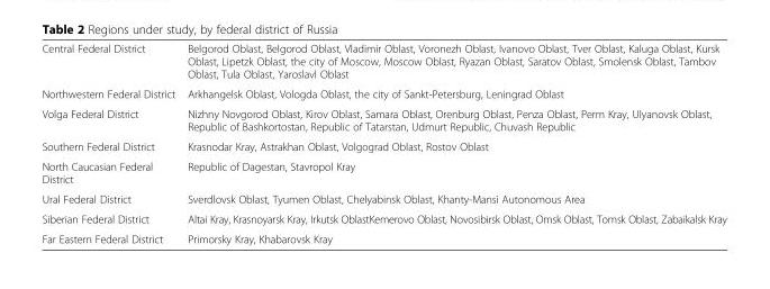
<table><tbody><tr><td>Central Federal District</td><td>Belgorod Oblast, Belgorod Oblast, Vladimir Oblast, Voronezh Oblast, Ivanovo Oblast, Tver Oblast, Kaluga Oblast, Kursk Oblast, Lipetzk Oblast, the city of Moscow, Moscow Oblast, Ryazan Oblast, Saratov Oblast, Smolensk Oblast, Tambov Oblast, Tula Oblast, Yaroslavl Oblast</td></tr><tr><td>Northwestern Federal District</td><td>Arkhangelsk Oblast, Vologda Oblast, the city of Sankt-Petersburg, Leningrad Oblast</td></tr><tr><td>Volga Federal District</td><td>Nizhny Novgorod Oblast, Kirov Oblast, Samara Oblast, Orenburg Oblast, Penza Oblast, Perm Kray, Ulyanovsk Oblast, Republic of Bashkortostan, Republic of Tatarstan, Udmurt Republic, Chuvash Republic</td></tr><tr><td>Southern Federal District</td><td>Krasnodar Kray, Astrakhan Oblast, Volgograd Oblast, Rostov Oblast</td></tr><tr><td>North Caucasian Federal District</td><td>Republic of Dagestan, Stavropol Kray</td></tr><tr><td>Ural Federal District</td><td>Sverdlovsk Oblast, Tyumen Oblast, Chelyabinsk Oblast, Khanty-Mansi Autonomous Area</td></tr><tr><td>Siberian Federal District</td><td>Altai Kray, Krasnoyarsk Kray, Irkutsk OblastKemerovo Oblast, Novosibirsk Oblast, Omsk Oblast, Tomsk Oblast, Zabaikalsk Kray</td></tr><tr><td>Far Eastern Federal District</td><td>Primorsky Kray, Khabarovsk Kray</td></tr></tbody></table>